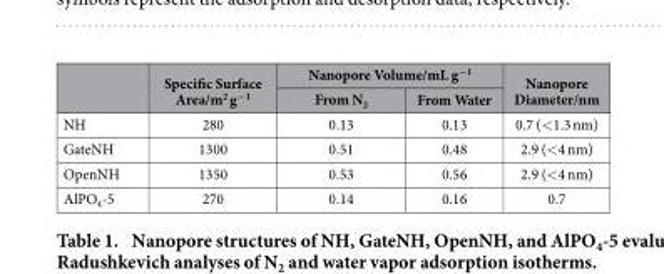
<table><thead><tr><td rowspan="2"></td><td rowspan="2">Specific Surface Area/m<sup>2</sup> g<sup>−1</sup></td><td colspan="2">Nanopore Volume/mL g<sup>−1</sup></td><td rowspan="2">Nanopore Diameter/nm</td></tr><tr><td>From N<sub>2</sub></td><td>From Water</td></tr></thead><tbody><tr><td>NH</td><td>280</td><td>0.13</td><td>0.13</td><td>0.7 (&lt; 1.3 nm)</td></tr><tr><td>GateNH</td><td>1300</td><td>0.51</td><td>0.48</td><td>2.9 (&lt; 4 nm)</td></tr><tr><td>OpenNH</td><td>1350</td><td>0.53</td><td>0.56</td><td>2.9 (&lt; 4 nm)</td></tr><tr><td>AlPO<sub>4</sub>-5</td><td>270</td><td>0.14</td><td>0.16</td><td>0.7</td></tr></tbody></table>